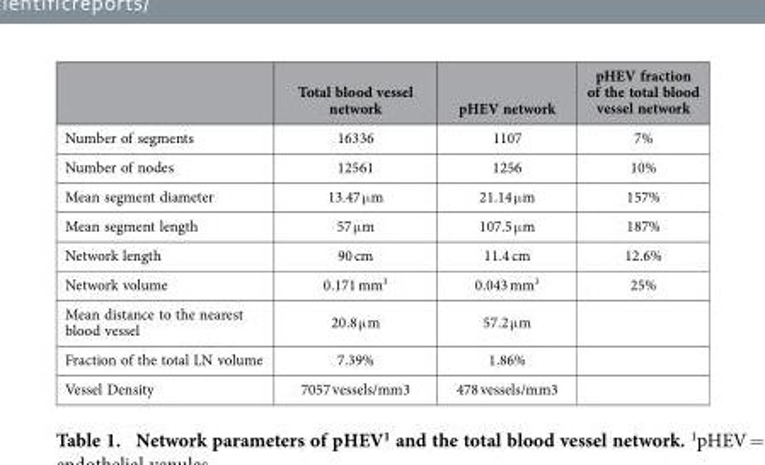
<table><thead><tr><td></td><td>Total blood vessel network</td><td>pHEV network</td><td>pHEV fraction of the total blood vessel network</td></tr></thead><tbody><tr><td>Number of segments</td><td>16336</td><td>1107</td><td>7%</td></tr><tr><td>Number of nodes</td><td>12561</td><td>1256</td><td>10%</td></tr><tr><td>Mean segment diameter</td><td>13.47 μ m</td><td>21.14 μ m</td><td>157%</td></tr><tr><td>Mean segment length</td><td>57 μ m</td><td>107.5 μ m</td><td>187%</td></tr><tr><td>Network length</td><td>90 cm</td><td>11.4 cm</td><td>12.6%</td></tr><tr><td>Network volume</td><td>0.171 mm<sup>3</sup></td><td>0.043 mm<sup>3</sup></td><td>25%</td></tr><tr><td>Mean distance to the nearest blood vessel</td><td>20.8 μ m</td><td>57.2 μ m</td><td></td></tr><tr><td>Fraction of the total LN volume</td><td>7.39%</td><td>1.86%</td><td></td></tr><tr><td>Vessel Density</td><td>7057 vessels/mm3</td><td>478 vessels/mm3</td><td></td></tr></tbody></table>